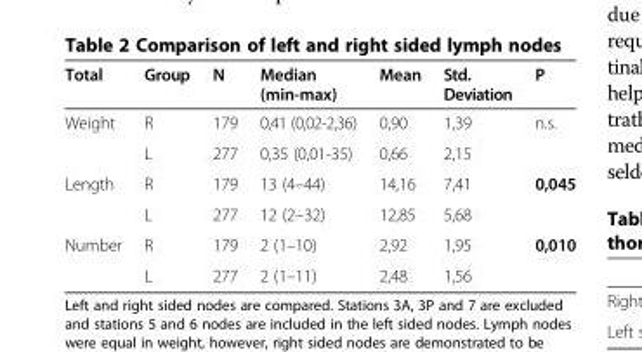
<table><thead><tr><td>Total</td><td>Group</td><td>N</td><td>Median (min-max)</td><td>Mean</td><td>Std. Deviation</td><td>P</td></tr></thead><tbody><tr><td rowspan="2">Weight</td><td>R</td><td>179</td><td>0,41 (0,02-2,36)</td><td>0,90</td><td>1,39</td><td>n.s.</td></tr><tr><td>L</td><td>277</td><td>0,35 (0,01-35)</td><td>0,66</td><td>2,15</td><td></td></tr><tr><td rowspan="2">Length</td><td>R</td><td>179</td><td>13 (4–44)</td><td>14,16</td><td>7,41</td><td>0,045</td></tr><tr><td>L</td><td>277</td><td>12 (2–32)</td><td>12,85</td><td>5,68</td><td></td></tr><tr><td rowspan="2">Number</td><td>R</td><td>179</td><td>2 (1–10)</td><td>2,92</td><td>1,95</td><td>0,010</td></tr><tr><td>L</td><td>277</td><td>2 (1–11)</td><td>2,48</td><td>1,56</td><td></td></tr></tbody></table>